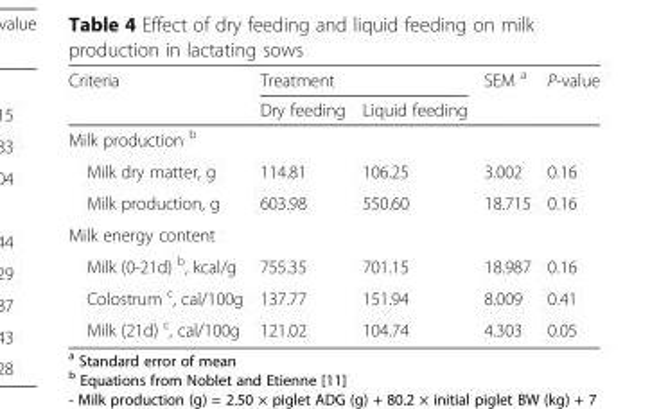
<table><thead><tr><td rowspan="2">Criteria</td><td colspan="2">Treatment</td><td rowspan="2">SEM <sup>a</sup></td><td rowspan="2">P-value</td></tr><tr><td>Dry feeding</td><td>Liquid feeding</td></tr></thead><tbody><tr><td colspan="5">Milk production <sup>b</sup></td></tr><tr><td>Milk dry matter, g</td><td>114.81</td><td>106.25</td><td>3.002</td><td>0.16</td></tr><tr><td>Milk production, g</td><td>603.98</td><td>550.60</td><td>18.715</td><td>0.16</td></tr><tr><td colspan="5">Milk energy content</td></tr><tr><td>Milk (0-21d) <sup>b</sup>, kcal/g</td><td>755.35</td><td>701.15</td><td>18.987</td><td>0.16</td></tr><tr><td>Colostrum <sup>c</sup>, cal/100g</td><td>137.77</td><td>151.94</td><td>8.009</td><td>0.41</td></tr><tr><td>Milk (21d) <sup>c</sup>, cal/100g</td><td>121.02</td><td>104.74</td><td>4.303</td><td>0.05</td></tr></tbody></table>